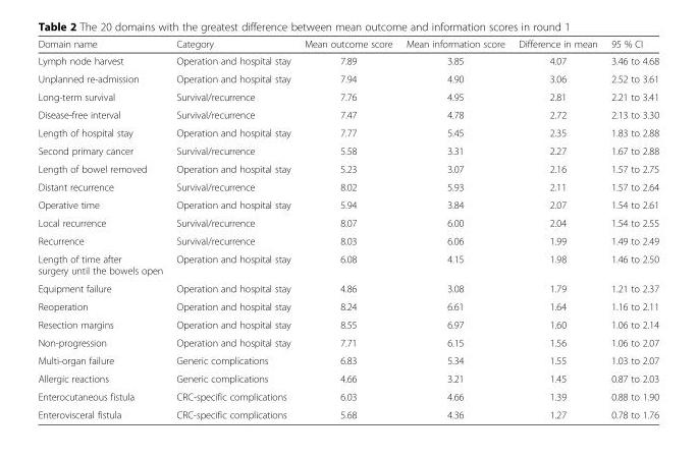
<table><thead><tr><td>Domain name</td><td>Category</td><td>Mean outcome score</td><td>Mean information score</td><td>Difference in mean</td><td>95 % CI</td></tr></thead><tbody><tr><td>Lymph node harvest</td><td>Operation and hospital stay</td><td>7.89</td><td>3.85</td><td>4.07</td><td>3.46 to 4.68</td></tr><tr><td>Unplanned re-admission</td><td>Operation and hospital stay</td><td>7.94</td><td>4.90</td><td>3.06</td><td>2.52 to 3.61</td></tr><tr><td>Long-term survival</td><td>Survival/recurrence</td><td>7.76</td><td>4.95</td><td>2.81</td><td>2.21 to 3.41</td></tr><tr><td>Disease-free interval</td><td>Survival/recurrence</td><td>7.47</td><td>4.78</td><td>2.72</td><td>2.13 to 3.30</td></tr><tr><td>Length of hospital stay</td><td>Operation and hospital stay</td><td>7.77</td><td>5.45</td><td>2.35</td><td>1.83 to 2.88</td></tr><tr><td>Second primary cancer</td><td>Survival/recurrence</td><td>5.58</td><td>3.31</td><td>2.27</td><td>1.67 to 2.88</td></tr><tr><td>Length of bowel removed</td><td>Operation and hospital stay</td><td>5.23</td><td>3.07</td><td>2.16</td><td>1.57 to 2.75</td></tr><tr><td>Distant recurrence</td><td>Survival/recurrence</td><td>8.02</td><td>5.93</td><td>2.11</td><td>1.57 to 2.64</td></tr><tr><td>Operative time</td><td>Operation and hospital stay</td><td>5.94</td><td>3.84</td><td>2.07</td><td>1.54 to 2.61</td></tr><tr><td>Local recurrence</td><td>Survival/recurrence</td><td>8.07</td><td>6.00</td><td>2.04</td><td>1.54 to 2.55</td></tr><tr><td>Recurrence</td><td>Survival/recurrence</td><td>8.03</td><td>6.06</td><td>1.99</td><td>1.49 to 2.49</td></tr><tr><td>Length of time after surgery until the bowels open</td><td>Operation and hospital stay</td><td>6.08</td><td>4.15</td><td>1.98</td><td>1.46 to 2.50</td></tr><tr><td>Equipment failure</td><td>Operation and hospital stay</td><td>4.86</td><td>3.08</td><td>1.79</td><td>1.21 to 2.37</td></tr><tr><td>Reoperation</td><td>Operation and hospital stay</td><td>8.24</td><td>6.61</td><td>1.64</td><td>1.16 to 2.11</td></tr><tr><td>Resection margins</td><td>Operation and hospital stay</td><td>8.55</td><td>6.97</td><td>1.60</td><td>1.06 to 2.14</td></tr><tr><td>Non-progression</td><td>Operation and hospital stay</td><td>7.71</td><td>6.15</td><td>1.56</td><td>1.06 to 2.07</td></tr><tr><td>Multi-organ failure</td><td>Generic complications</td><td>6.83</td><td>5.34</td><td>1.55</td><td>1.03 to 2.07</td></tr><tr><td>Allergic reactions</td><td>Generic complications</td><td>4.66</td><td>3.21</td><td>1.45</td><td>0.87 to 2.03</td></tr><tr><td>Enterocutaneous fistula</td><td>CRC-specific complications</td><td>6.03</td><td>4.66</td><td>1.39</td><td>0.88 to 1.90</td></tr><tr><td>Enterovisceral fistula</td><td>CRC-specific complications</td><td>5.68</td><td>4.36</td><td>1.27</td><td>0.78 to 1.76</td></tr></tbody></table>